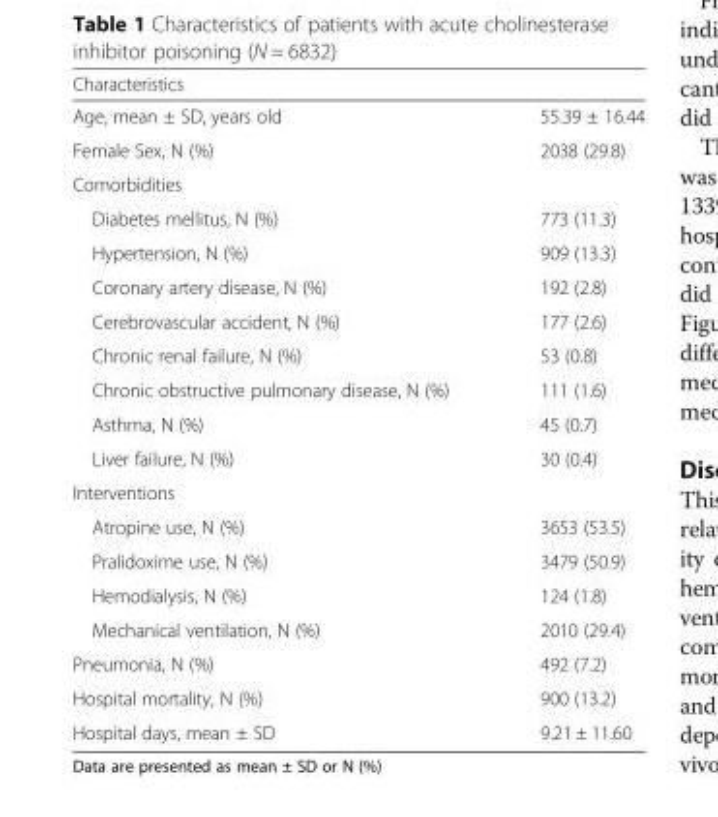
<table><thead><tr><td>Characteristics</td><td></td></tr></thead><tbody><tr><td>Age, mean ± SD, years old</td><td>55.39 ± 16.44</td></tr><tr><td>Female Sex, N (%)</td><td>2038 (29.8)</td></tr><tr><td colspan="2">Comorbidities</td></tr><tr><td>Diabetes mellitus, N (%)</td><td>773 (11.3)</td></tr><tr><td>Hypertension, N (%)</td><td>909 (13.3)</td></tr><tr><td>Coronary artery disease, N (%)</td><td>192 (2.8)</td></tr><tr><td>Cerebrovascular accident, N (%)</td><td>177 (2.6)</td></tr><tr><td>Chronic renal failure, N (%)</td><td>53 (0.8)</td></tr><tr><td>Chronic obstructive pulmonary disease, N (%)</td><td>111 (1.6)</td></tr><tr><td>Asthma, N (%)</td><td>45 (0.7)</td></tr><tr><td>Liver failure, N (%)</td><td>30 (0.4)</td></tr><tr><td colspan="2">Interventions</td></tr><tr><td>Atropine use, N (%)</td><td>3653 (53.5)</td></tr><tr><td>Pralidoxime use, N (%)</td><td>3479 (50.9)</td></tr><tr><td>Hemodialysis, N (%)</td><td>124 (1.8)</td></tr><tr><td>Mechanical ventilation, N (%)</td><td>2010 (29.4)</td></tr><tr><td>Pneumonia, N (%)</td><td>492 (7.2)</td></tr><tr><td>Hospital mortality, N (%)</td><td>900 (13.2)</td></tr><tr><td>Hospital days, mean ± SD</td><td>9.21 ± 11.60</td></tr></tbody></table>